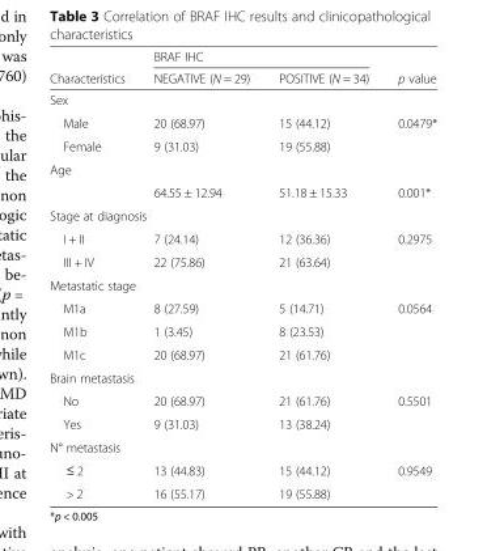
<table><thead><tr><td rowspan="2">Characteristics</td><td colspan="2">BRAF IHC</td><td rowspan="2">p value</td></tr><tr><td>NEGATIVE (N = 29)</td><td>POSITIVE (N = 34)</td></tr></thead><tbody><tr><td colspan="4">Sex</td></tr><tr><td>Male</td><td>20 (68.97)</td><td>15 (44.12)</td><td>0.0479*</td></tr><tr><td>Female</td><td>9 (31.03)</td><td>19 (55.88)</td><td></td></tr><tr><td colspan="4">Age</td></tr><tr><td></td><td>64.55 ± 12.94</td><td>51.18 ± 15.33</td><td>0.001*</td></tr><tr><td colspan="4">Stage at diagnosis</td></tr><tr><td>I + II</td><td>7 (24.14)</td><td>12 (36.36)</td><td>0.2975</td></tr><tr><td>III + IV</td><td>22 (75.86)</td><td>21 (63.64)</td><td></td></tr><tr><td colspan="4">Metastatic stage</td></tr><tr><td>M1a</td><td>8 (27.59)</td><td>5 (14.71)</td><td>0.0564</td></tr><tr><td>M1b</td><td>1 (3.45)</td><td>8 (23.53)</td><td></td></tr><tr><td>M1c</td><td>20 (68.97)</td><td>21 (61.76)</td><td></td></tr><tr><td colspan="4">Brain metastasis</td></tr><tr><td>No</td><td>20 (68.97)</td><td>21 (61.76)</td><td>0.5501</td></tr><tr><td>Yes</td><td>9 (31.03)</td><td>13 (38.24)</td><td></td></tr><tr><td colspan="4">N° metastasis</td></tr><tr><td>≤ 2</td><td>13 (44.83)</td><td>15 (44.12)</td><td>0.9549</td></tr><tr><td>&gt; 2</td><td>16 (55.17)</td><td>19 (55.88)</td><td></td></tr></tbody></table>